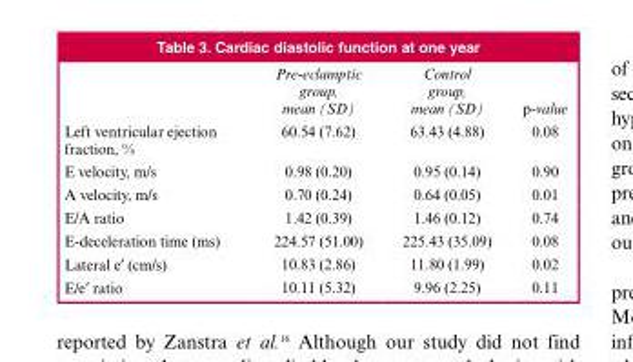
<table><thead><tr><td></td><td>Pre-eclamptic group, mean (SD)</td><td>Control group, mean (SD)</td><td>p-value</td></tr></thead><tbody><tr><td>Left ventricular ejection fraction, %</td><td>60.54 (7.62)</td><td>63.43 (4.88)</td><td>0.08</td></tr><tr><td>E velocity, m/s</td><td>0.98 (0.20)</td><td>0.95 (0.14)</td><td>0.90</td></tr><tr><td>A velocity, m/s</td><td>0.70 (0.24)</td><td>0.64 (0.05)</td><td>0.01</td></tr><tr><td>E/A ratio</td><td>1.42 (0.39)</td><td>1.46 (0.12)</td><td>0.74</td></tr><tr><td>E-deceleration time (ms)</td><td>224.57 (51.00)</td><td>225.43 (35.09)</td><td>0.08</td></tr><tr><td>Lateral e′ (cm/s)</td><td>10.83 (2.86)</td><td>11.80 (1.99)</td><td>0.02</td></tr><tr><td>E/e′ ratio</td><td>10.11 (5.32)</td><td>9.96 (2.25)</td><td>0.11</td></tr></tbody></table>